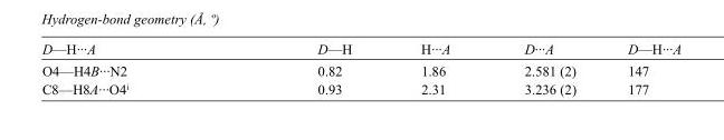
<table><tbody><tr><td>D—H···A</td><td>D—H</td><td>H···A</td><td>D···A</td><td>D—H···A</td></tr><tr><td>O4—H4B···N2</td><td>0.82</td><td>1.86</td><td>2.581 (2)</td><td>147</td></tr><tr><td>C8—H8A···O4<sup>i</sup></td><td>0.93</td><td>2.31</td><td>3.236 (2)</td><td>177</td></tr></tbody></table>